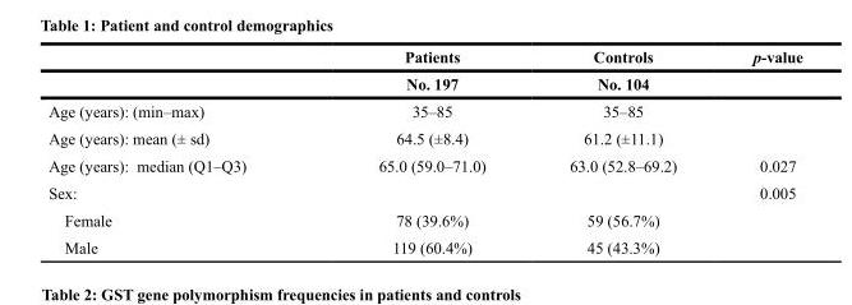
<table><thead><tr><td rowspan="2"></td><td rowspan="2">Patients No. 197</td><td rowspan="2">Controls No. 104</td><td rowspan="2">p-value</td></tr><tr></tr></thead><tbody><tr><td>Age (years): (min–max)</td><td>35–85</td><td>35–85</td><td></td></tr><tr><td>Age (years): mean (± sd)</td><td>64.5 (±8.4)</td><td>61.2 (±11.1)</td><td></td></tr><tr><td>Age (years): median (Q1–Q3)</td><td>65.0 (59.0–71.0)</td><td>63.0 (52.8–69.2)</td><td>0.027</td></tr><tr><td>Sex:</td><td></td><td></td><td>0.005</td></tr><tr><td>Female</td><td>78 (39.6%)</td><td>59 (56.7%)</td><td></td></tr><tr><td>Male</td><td>119 (60.4%)</td><td>45 (43.3%)</td><td></td></tr></tbody></table>